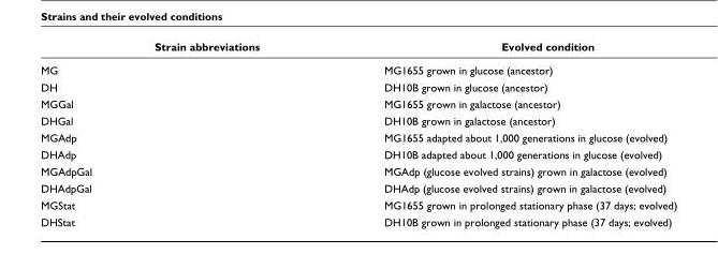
<table><thead><tr><td>Strain abbreviations</td><td>Evolved condition</td></tr></thead><tbody><tr><td>MG</td><td>MG1655 grown in glucose (ancestor)</td></tr><tr><td>DH</td><td>DH10B grown in glucose (ancestor)</td></tr><tr><td>MGGal</td><td>MG1655 grown in galactose (ancestor)</td></tr><tr><td>DHGal</td><td>DH10B grown in galactose (ancestor)</td></tr><tr><td>MGAdp</td><td>MG1655 adapted about 1,000 generations in glucose (evolved)</td></tr><tr><td>DHAdp</td><td>DH10B adapted about 1,000 generations in glucose (evolved)</td></tr><tr><td>MGAdpGal</td><td>MGAdp (glucose evolved strains) grown in galactose (evolved)</td></tr><tr><td>DHAdpGal</td><td>DHAdp (glucose evolved strains) grown in galactose (evolved)</td></tr><tr><td>MGStat</td><td>MG1655 grown in prolonged stationary phase (37 days; evolved)</td></tr><tr><td>DHStat</td><td>DH10B grown in prolonged stationary phase (37 days; evolved)</td></tr></tbody></table>